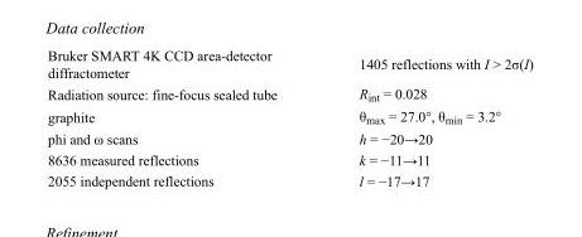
<table><tbody><tr><td>Bruker SMART 4K CCD area-detector diffractometer</td><td>1405 reflections with I &gt; 2σ(I)</td></tr><tr><td>Radiation source: fine-focus sealed tube</td><td>R<sub>int</sub> = 0.028</td></tr><tr><td>graphite</td><td>θ<sub>max</sub> = 27.0°, θ<sub>min</sub> = 3.2°</td></tr><tr><td>phi and ω scans</td><td>h = −20→20</td></tr><tr><td>8636 measured reflections</td><td>k = −11→11</td></tr><tr><td>2055 independent reflections</td><td>l = −17→17</td></tr></tbody></table>